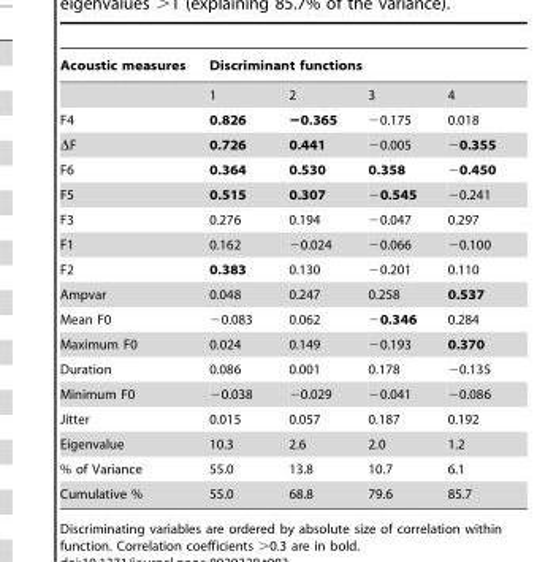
<table><thead><tr><td rowspan="2">Acoustic measures</td><td colspan="4">Discriminant functions</td></tr><tr><td>1</td><td>2</td><td>3</td><td>4</td></tr></thead><tbody><tr><td>F4</td><td>0.826</td><td>−0.365</td><td>−0.175</td><td>0.018</td></tr><tr><td>ΔF</td><td>0.726</td><td>0.441</td><td>−0.005</td><td>−0.355</td></tr><tr><td>F6</td><td>0.364</td><td>0.530</td><td>0.358</td><td>−0.450</td></tr><tr><td>F5</td><td>0.515</td><td>0.307</td><td>−0.545</td><td>−0.241</td></tr><tr><td>F3</td><td>0.276</td><td>0.194</td><td>−0.047</td><td>0.297</td></tr><tr><td>F1</td><td>0.162</td><td>−0.024</td><td>−0.066</td><td>−0.100</td></tr><tr><td>F2</td><td>0.383</td><td>0.130</td><td>−0.201</td><td>0.110</td></tr><tr><td>Ampvar</td><td>0.048</td><td>0.247</td><td>0.258</td><td>0.537</td></tr><tr><td>Mean F0</td><td>−0.083</td><td>0.062</td><td>−0.346</td><td>0.284</td></tr><tr><td>Maximum F0</td><td>0.024</td><td>0.149</td><td>−0.193</td><td>0.370</td></tr><tr><td>Duration</td><td>0.086</td><td>0.001</td><td>0.178</td><td>−0.135</td></tr><tr><td>Minimum F0</td><td>−0.038</td><td>−0.029</td><td>−0.041</td><td>−0.086</td></tr><tr><td>Jitter</td><td>0.015</td><td>0.057</td><td>0.187</td><td>0.192</td></tr><tr><td>Eigenvalue</td><td>10.3</td><td>2.6</td><td>2.0</td><td>1.2</td></tr><tr><td>% of Variance</td><td>55.0</td><td>13.8</td><td>10.7</td><td>6.1</td></tr><tr><td>Cumulative %</td><td>55.0</td><td>68.8</td><td>79.6</td><td>85.7</td></tr></tbody></table>